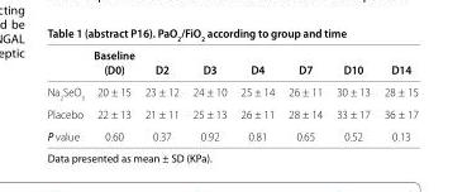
<table><thead><tr><td></td><td>Baseline (D0)</td><td>D2</td><td>D3</td><td>D4</td><td>D7</td><td>D10</td><td>D14</td></tr></thead><tbody><tr><td>Na<sub>2</sub>SeO<sub>3</sub></td><td>20 ± 15</td><td>23 ± 12</td><td>24 ± 10</td><td>25 ± 14</td><td>26 ± 11</td><td>30 ± 13</td><td>28 ± 15</td></tr><tr><td>Placebo</td><td>22 ± 13</td><td>21 ± 11</td><td>25 ± 13</td><td>26 ± 11</td><td>28 ± 14</td><td>33 ± 17</td><td>36 ± 17</td></tr><tr><td>P value</td><td>0.60</td><td>0.37</td><td>0.92</td><td>0.81</td><td>0.65</td><td>0.52</td><td>0.13</td></tr></tbody></table>